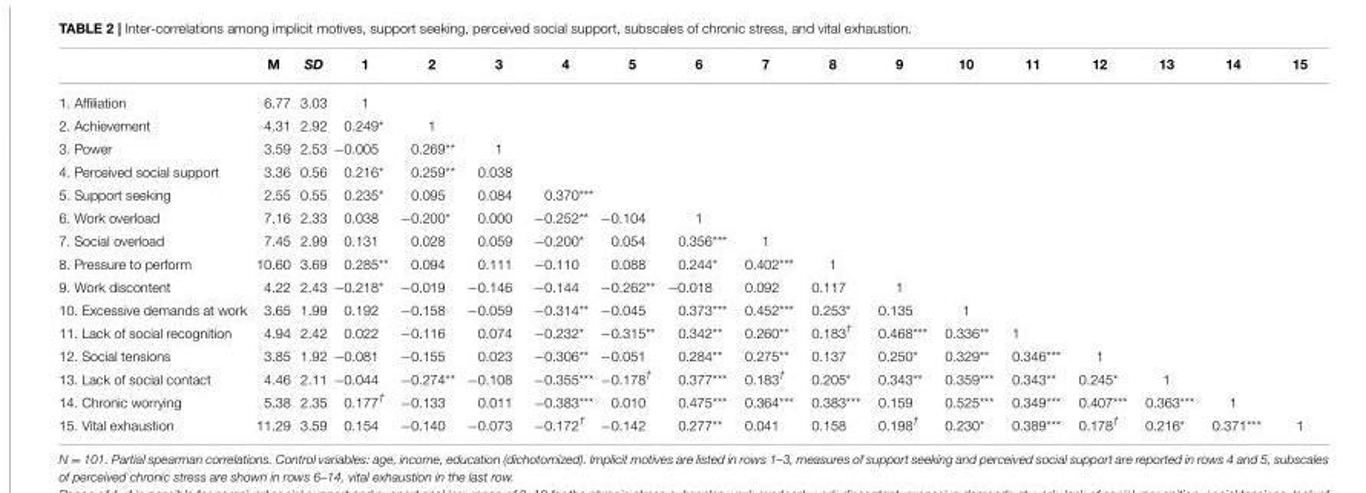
<table><thead><tr><td></td><td>M</td><td>SD</td><td>1</td><td>2</td><td>3</td><td>4</td><td>5</td><td>6</td><td>7</td><td>8</td><td>9</td><td>10</td><td>11</td><td>12</td><td>13</td><td>14</td><td>15</td></tr></thead><tbody><tr><td>1. Affiliation</td><td>6.77</td><td>3.03</td><td>1</td><td></td><td></td><td></td><td></td><td></td><td></td><td></td><td></td><td></td><td></td><td></td><td></td><td></td><td></td></tr><tr><td>2. Achievement</td><td>4.31</td><td>2.92</td><td>0.249*</td><td>1</td><td></td><td></td><td></td><td></td><td></td><td></td><td></td><td></td><td></td><td></td><td></td><td></td><td></td></tr><tr><td>3. Power</td><td>3.59</td><td>2.53</td><td>−0.005</td><td>0.269**</td><td>1</td><td></td><td></td><td></td><td></td><td></td><td></td><td></td><td></td><td></td><td></td><td></td><td></td></tr><tr><td>4. Perceived social support</td><td>3.36</td><td>0.56</td><td>0.216*</td><td>0.259**</td><td>0.038</td><td></td><td></td><td></td><td></td><td></td><td></td><td></td><td></td><td></td><td></td><td></td><td></td></tr><tr><td>5. Support seeking</td><td>2.55</td><td>0.55</td><td>0.235*</td><td>0.095</td><td>0.084</td><td>0.370***</td><td></td><td></td><td></td><td></td><td></td><td></td><td></td><td></td><td></td><td></td><td></td></tr><tr><td>6. Work overload</td><td>7.16</td><td>2.33</td><td>0.038</td><td>−0.200*</td><td>0.000</td><td>−0.252**</td><td>−0.104</td><td>1</td><td></td><td></td><td></td><td></td><td></td><td></td><td></td><td></td><td></td></tr><tr><td>7. Social overload</td><td>7.45</td><td>2.99</td><td>0.131</td><td>0.028</td><td>0.059</td><td>−0.200*</td><td>0.054</td><td>0.356***</td><td>1</td><td></td><td></td><td></td><td></td><td></td><td></td><td></td><td></td></tr><tr><td>8. Pressure to perform</td><td>10.60</td><td>3.69</td><td>0.285**</td><td>0.094</td><td>0.111</td><td>−0.110</td><td>0.088</td><td>0.244*</td><td>0.402***</td><td>1</td><td></td><td></td><td></td><td></td><td></td><td></td><td></td></tr><tr><td>9. Work discontent</td><td>4.22</td><td>2.43</td><td>−0.218*</td><td>−0.019</td><td>−0.146</td><td>−0.144</td><td>−0.262**</td><td>−0.018</td><td>0.092</td><td>0.117</td><td>1</td><td></td><td></td><td></td><td></td><td></td><td></td></tr><tr><td>10. Excessive demands at work</td><td>3.65</td><td>1.99</td><td>0.192</td><td>−0.158</td><td>−0.059</td><td>−0.314**</td><td>−0.045</td><td>0.373***</td><td>0.452***</td><td>0.253*</td><td>0.135</td><td>1</td><td></td><td></td><td></td><td></td><td></td></tr><tr><td>11. Lack of social recognition</td><td>4.94</td><td>2.42</td><td>0.022</td><td>−0.116</td><td>0.074</td><td>−0.232*</td><td>−0.315**</td><td>0.342**</td><td>0.260**</td><td>0.183†</td><td>0.468***</td><td>0.336**</td><td>1</td><td></td><td></td><td></td><td></td></tr><tr><td>12. Social tensions</td><td>3.85</td><td>1.92</td><td>−0.081</td><td>−0.155</td><td>0.023</td><td>−0.306**</td><td>−0.051</td><td>0.284**</td><td>0.275**</td><td>0.137</td><td>0.250*</td><td>0.329**</td><td>0.346***</td><td>1</td><td></td><td></td><td></td></tr><tr><td>13. Lack of social contact</td><td>4.46</td><td>2.11</td><td>−0.044</td><td>−0.274**</td><td>−0.108</td><td>−0.355***</td><td>−0.178†</td><td>0.377***</td><td>0.183†</td><td>0.205*</td><td>0.343**</td><td>0.359***</td><td>0.343**</td><td>0.245*</td><td>1</td><td></td><td></td></tr><tr><td>14. Chronic worrying</td><td>5.38</td><td>2.35</td><td>0.177†</td><td>−0.133</td><td>0.011</td><td>−0.383***</td><td>0.010</td><td>0.475***</td><td>0.364***</td><td>0.383***</td><td>0.159</td><td>0.525***</td><td>0.349***</td><td>0.407***</td><td>0.363***</td><td>1</td><td></td></tr><tr><td>15. Vital exhaustion</td><td>11.29</td><td>3.59</td><td>0.154</td><td>−0.140</td><td>−0.073</td><td>−0.172†</td><td>−0.142</td><td>0.277**</td><td>0.041</td><td>0.158</td><td>0.198†</td><td>0.230*</td><td>0.389***</td><td>0.178†</td><td>0.216*</td><td>0.371***</td><td>1</td></tr></tbody></table>